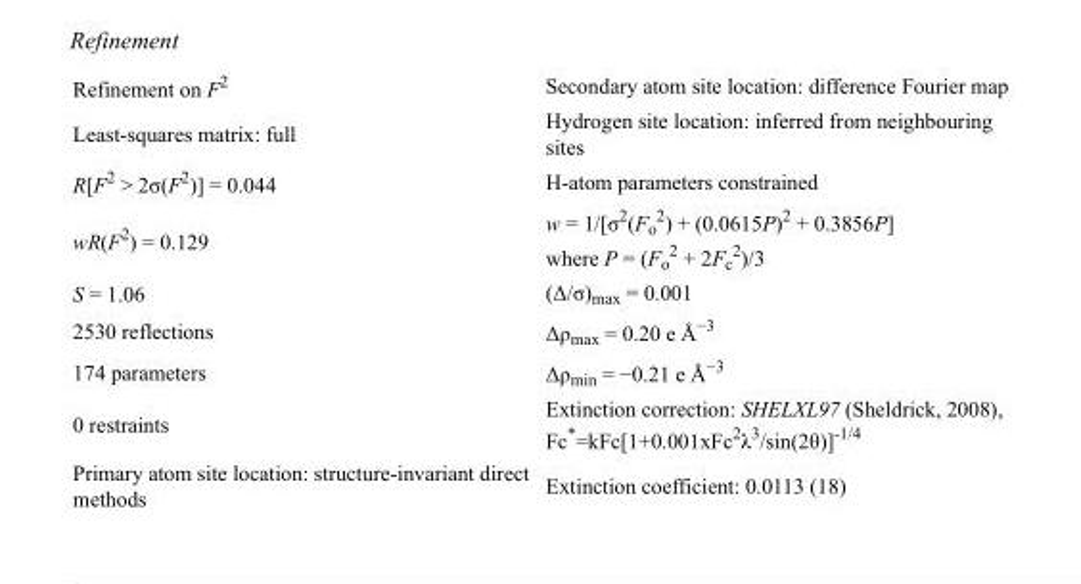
<table><tbody><tr><td>Refinement on F<sup>2</sup></td><td>Secondary atom site location: difference Fourier map</td></tr><tr><td>Least-squares matrix: full</td><td>Hydrogen site location: inferred from neighbouring sites</td></tr><tr><td>R[F<sup>2</sup> &gt; 2σ(F<sup>2</sup>)] = 0.044</td><td>H-atom parameters constrained</td></tr><tr><td>wR(F<sup>2</sup>) = 0.129</td><td>w = 1/[σ<sup>2</sup>(F<sub>o</sub> <sup>2</sup>) + (0.0615P)<sup>2</sup> + 0.3856P] where P = (F<sub>o</sub> <sup>2</sup> + 2F<sub>c</sub> <sup>2</sup>)/3</td></tr><tr><td>S = 1.06</td><td>(Δ/σ)<sub>max</sub> = 0.001</td></tr><tr><td>2530 reflections</td><td>Δρ<sub>max</sub> = 0.20 e Å<sup>−3</sup></td></tr><tr><td>174 parameters</td><td>Δρ<sub>min</sub> = −0.21 e Å<sup>−3</sup></td></tr><tr><td>0 restraints</td><td>Extinction correction: SHELXL97 (Sheldrick, 2008), Fc*=kFc[1+0.001xFc<sup>2</sup>λ<sup>3</sup>/sin(2θ)]<sup>-1/4</sup></td></tr><tr><td>Primary atom site location: structure-invariant direct methods</td><td>Extinction coefficient: 0.0113 (18)</td></tr></tbody></table>